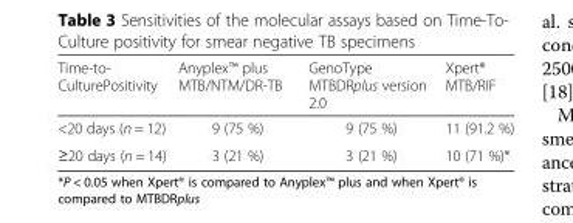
<table><thead><tr><td>Time-to- CulturePositivity</td><td>Anyplex™ plus MTB/NTM/DR-TB</td><td>GenoType MTBDRplus version 2.0</td><td>Xpert® MTB/RIF</td></tr></thead><tbody><tr><td>&lt;20 days (n = 12)</td><td>9 (75 %)</td><td>9 (75 %)</td><td>11 (91.2 %)</td></tr><tr><td>≥20 days (n = 14)</td><td>3 (21 %)</td><td>3 (21 %)</td><td>10 (71 %)*</td></tr></tbody></table>